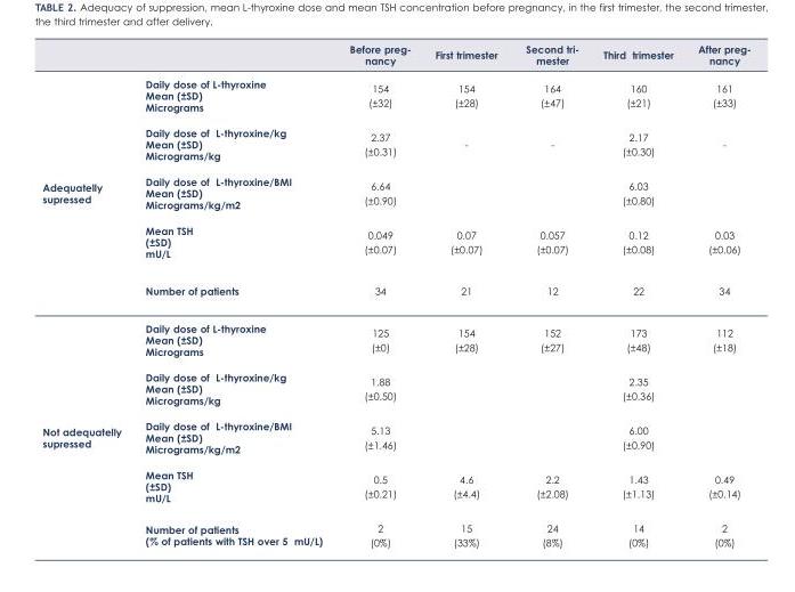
<table><thead><tr><td></td><td></td><td>Before preg- nancy</td><td>First trimester</td><td>Second tri- mester</td><td>Third trimester</td><td>After preg- nancy</td></tr></thead><tbody><tr><td rowspan="5">Adequatelly supressed</td><td>Daily dose of L-thyroxine Mean (±SD) Micrograms</td><td>154 (±32)</td><td>154 (±28)</td><td>164 (±47)</td><td>160 (±21)</td><td>161 (±33)</td></tr><tr><td>Daily dose of L-thyroxine/kg Mean (±SD) Micrograms/kg</td><td>2.37 (±0.31)</td><td>-</td><td>-</td><td>2.17 (±0.30)</td><td>-</td></tr><tr><td>Daily dose of L-thyroxine/BMI Mean (±SD) Micrograms/kg/m2</td><td>6.64 (±0.90)</td><td></td><td></td><td>6.03 (±0.80)</td><td></td></tr><tr><td>Mean TSH (±SD) mU/L</td><td>0.049 (±0.07)</td><td>0.07 (±0.07)</td><td>0.057 (±0.07)</td><td>0.12 (±0.08)</td><td>0.03 (±0.06)</td></tr><tr><td>Number of patients</td><td>34</td><td>21</td><td>12</td><td>22</td><td>34</td></tr><tr><td rowspan="5">Not adequatelly supressed</td><td>Daily dose of L-thyroxine Mean (±SD) Micrograms</td><td>125 (±0)</td><td>154 (±28)</td><td>152 (±27)</td><td>173 (±48)</td><td>112 (±18)</td></tr><tr><td>Daily dose of L-thyroxine/kg Mean (±SD) Micrograms/kg</td><td>1.88 (±0.50)</td><td></td><td></td><td>2.35 (±0.36)</td><td></td></tr><tr><td>Daily dose of L-thyroxine/BMI Mean (±SD) Micrograms/kg/m2</td><td>5.13 (±1.46)</td><td></td><td></td><td>6.00 (±0.90)</td><td></td></tr><tr><td>Mean TSH (±SD) mU/L</td><td>0.5 (±0.21)</td><td>4.6 (±4.4)</td><td>2.2 (±2.08)</td><td>1.43 (±1.13)</td><td>0.49 (±0.14)</td></tr><tr><td>Number of patients (% of patients with TSH over 5 mU/L)</td><td>2 (0%)</td><td>15 (33%)</td><td>24 (8%)</td><td>14 (0%)</td><td>2 (0%)</td></tr></tbody></table>